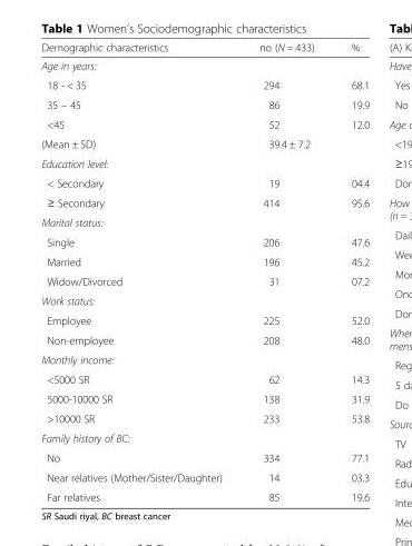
<table><thead><tr><td>Demographic characteristics</td><td>no (N = 433)</td><td>%</td></tr></thead><tbody><tr><td colspan="3">Age in years:</td></tr><tr><td>18 - &lt; 35</td><td>294</td><td>68.1</td></tr><tr><td>35 – 45</td><td>86</td><td>19.9</td></tr><tr><td>&lt;45</td><td>52</td><td>12.0</td></tr><tr><td>(Mean ± SD)</td><td>39.4 ± 7.2</td><td></td></tr><tr><td colspan="3">Education level:</td></tr><tr><td>&lt; Secondary</td><td>19</td><td>04.4</td></tr><tr><td>≥ Secondary</td><td>414</td><td>95.6</td></tr><tr><td colspan="3">Marital status:</td></tr><tr><td>Single</td><td>206</td><td>47.6</td></tr><tr><td>Married</td><td>196</td><td>45.2</td></tr><tr><td>Widow/Divorced</td><td>31</td><td>07.2</td></tr><tr><td colspan="3">Work status:</td></tr><tr><td>Employee</td><td>225</td><td>52.0</td></tr><tr><td>Non-employee</td><td>208</td><td>48.0</td></tr><tr><td colspan="3">Monthly income:</td></tr><tr><td>&lt;5000 SR</td><td>62</td><td>14.3</td></tr><tr><td>5000-10000 SR</td><td>138</td><td>31.9</td></tr><tr><td>&gt;10000 SR</td><td>233</td><td>53.8</td></tr><tr><td colspan="3">Family history of BC:</td></tr><tr><td>No</td><td>334</td><td>77.1</td></tr><tr><td>Near relatives (Mother/Sister/Daughter)</td><td>14</td><td>03.3</td></tr><tr><td>Far relatives</td><td>85</td><td>19.6</td></tr></tbody></table>